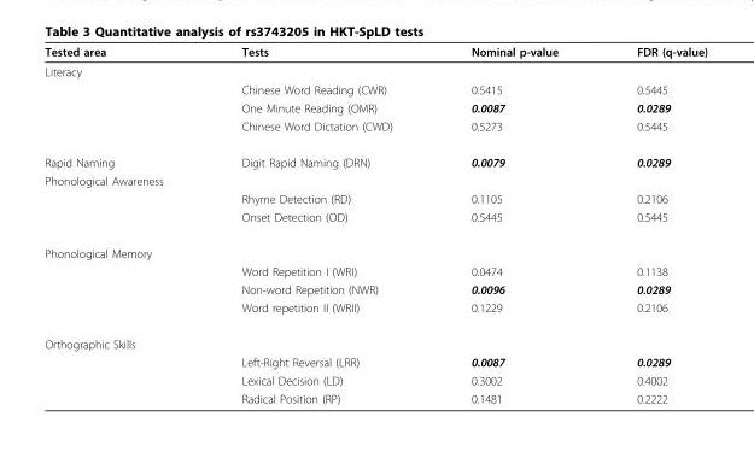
<table><thead><tr><td>Tested area</td><td>Tests</td><td>Nominal p-value</td><td>FDR (q-value)</td></tr></thead><tbody><tr><td colspan="4">Literacy</td></tr><tr><td></td><td>Chinese Word Reading (CWR)</td><td>0.5415</td><td>0.5445</td></tr><tr><td></td><td>One Minute Reading (OMR)</td><td>0.0087</td><td>0.0289</td></tr><tr><td></td><td>Chinese Word Dictation (CWD)</td><td>0.5273</td><td>0.5445</td></tr><tr><td>Rapid Naming</td><td>Digit Rapid Naming (DRN)</td><td>0.0079</td><td>0.0289</td></tr><tr><td colspan="4">Phonological Awareness</td></tr><tr><td></td><td>Rhyme Detection (RD)</td><td>0.1105</td><td>0.2106</td></tr><tr><td></td><td>Onset Detection (OD)</td><td>0.5445</td><td>0.5445</td></tr><tr><td colspan="4">Phonological Memory</td></tr><tr><td></td><td>Word Repetition I (WRI)</td><td>0.0474</td><td>0.1138</td></tr><tr><td></td><td>Non-word Repetition (NWR)</td><td>0.0096</td><td>0.0289</td></tr><tr><td></td><td>Word repetition II (WRII)</td><td>0.1229</td><td>0.2106</td></tr><tr><td colspan="4">Orthographic Skills</td></tr><tr><td></td><td>Left-Right Reversal (LRR)</td><td>0.0087</td><td>0.0289</td></tr><tr><td></td><td>Lexical Decision (LD)</td><td>0.3002</td><td>0.4002</td></tr><tr><td></td><td>Radical Position (RP)</td><td>0.1481</td><td>0.2222</td></tr></tbody></table>